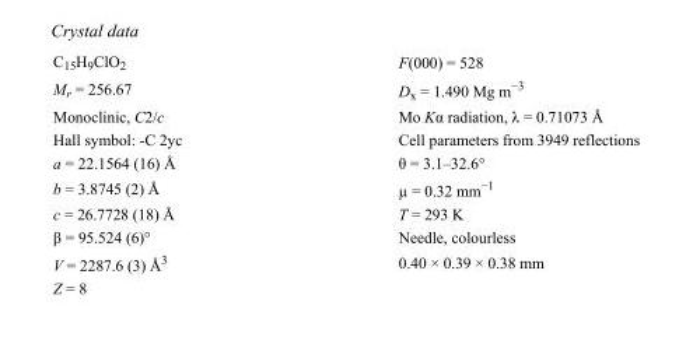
<table><tbody><tr><td>C<sub>15</sub>H<sub>9</sub>ClO<sub>2</sub></td><td>F(000) = 528</td></tr><tr><td>M<sub>r</sub> = 256.67</td><td>D<sub>x</sub> = 1.490 Mg m<sup>−3</sup></td></tr><tr><td>Monoclinic, C2/c</td><td>Mo Kα radiation, λ = 0.71073 Å</td></tr><tr><td>Hall symbol: -C 2yc</td><td>Cell parameters from 3949 reflections</td></tr><tr><td>a = 22.1564 (16) Å</td><td>θ = 3.1–32.6°</td></tr><tr><td>b = 3.8745 (2) Å</td><td>µ = 0.32 mm<sup>−1</sup></td></tr><tr><td>c = 26.7728 (18) Å</td><td>T = 293 K</td></tr><tr><td>β = 95.524 (6)°</td><td>Needle, colourless</td></tr><tr><td>V = 2287.6 (3) Å<sup>3</sup></td><td>0.40 × 0.39 × 0.38 mm</td></tr><tr><td>Z = 8</td><td></td></tr></tbody></table>